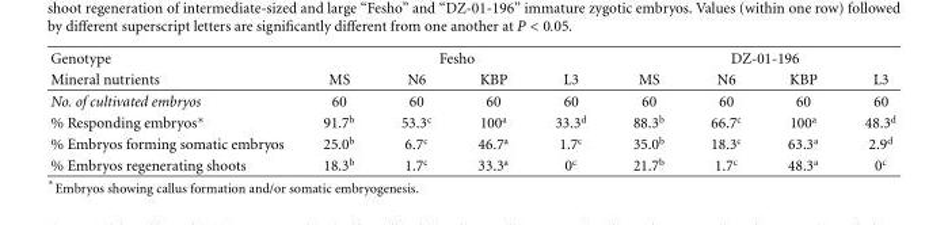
<table><thead><tr><td rowspan="2">Genotype Mineral nutrients</td><td colspan="4">Fesho</td><td colspan="4">DZ-01-196</td></tr><tr><td>MS</td><td>N6</td><td>KBP</td><td>L3</td><td>MS</td><td>N6</td><td>KBP</td><td>L3</td></tr></thead><tbody><tr><td>No. of cultivated embryos</td><td>60</td><td>60</td><td>60</td><td>60</td><td>60</td><td>60</td><td>60</td><td>60</td></tr><tr><td>% Responding embryos∗</td><td>91.7<sup>b</sup></td><td>53.3<sup>c</sup></td><td>100<sup>a</sup></td><td>33.3<sup>d</sup></td><td>88.3<sup>b</sup></td><td>66.7<sup>c</sup></td><td>100<sup>a</sup></td><td>48.3<sup>d</sup></td></tr><tr><td>% Embryos forming somatic embryos</td><td>25.0<sup>b</sup></td><td>6.7<sup>c</sup></td><td>46.7<sup>a</sup></td><td>1.7<sup>c</sup></td><td>35.0<sup>b</sup></td><td>18.3<sup>c</sup></td><td>63.3<sup>a</sup></td><td>2.9<sup>d</sup></td></tr><tr><td>% Embryos regenerating shoots</td><td>18.3<sup>b</sup></td><td>1.7<sup>c</sup></td><td>33.3<sup>a</sup></td><td>0<sup>c</sup></td><td>21.7<sup>b</sup></td><td>1.7<sup>c</sup></td><td>48.3<sup>a</sup></td><td>0<sup>c</sup></td></tr></tbody></table>